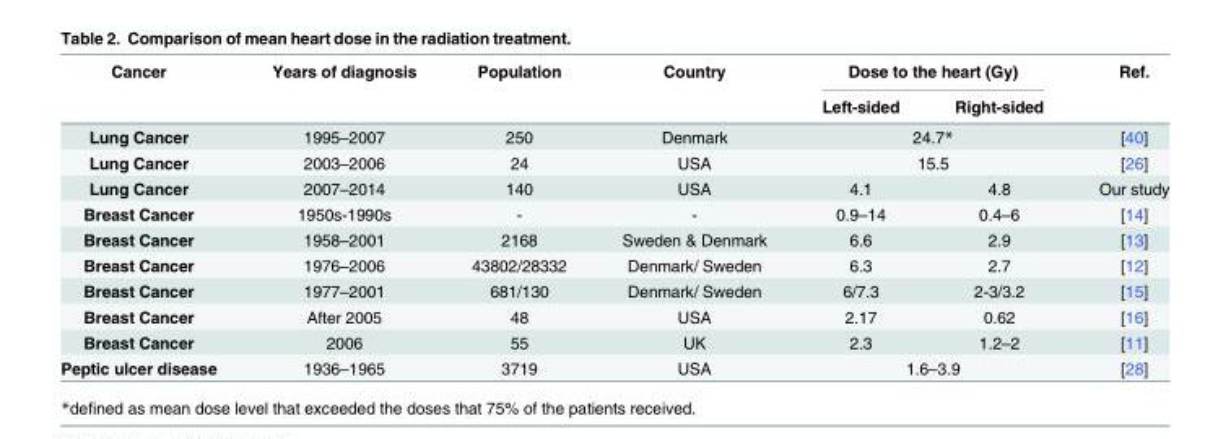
<table><thead><tr><td rowspan="2">Cancer</td><td rowspan="2">Years of diagnosis</td><td rowspan="2">Population</td><td rowspan="2">Country</td><td colspan="2">Dose to the heart (Gy)</td><td rowspan="2">Ref.</td></tr><tr><td>Left-sided</td><td>Right-sided</td></tr></thead><tbody><tr><td>Lung Cancer</td><td>1995–2007</td><td>250</td><td>Denmark</td><td colspan="2">24.7*</td><td>[40]</td></tr><tr><td>Lung Cancer</td><td>2003–2006</td><td>24</td><td>USA</td><td colspan="2">15.5</td><td>[26]</td></tr><tr><td>Lung Cancer</td><td>2007–2014</td><td>140</td><td>USA</td><td>4.1</td><td>4.8</td><td>Our study</td></tr><tr><td>Breast Cancer</td><td>1950s-1990s</td><td>-</td><td>-</td><td>0.9–14</td><td>0.4–6</td><td>[14]</td></tr><tr><td>Breast Cancer</td><td>1958–2001</td><td>2168</td><td>Sweden &amp; Denmark</td><td>6.6</td><td>2.9</td><td>[13]</td></tr><tr><td>Breast Cancer</td><td>1976–2006</td><td>43802/28332</td><td>Denmark/ Sweden</td><td>6.3</td><td>2.7</td><td>[12]</td></tr><tr><td>Breast Cancer</td><td>1977–2001</td><td>681/130</td><td>Denmark/ Sweden</td><td>6/7.3</td><td>2-3/3.2</td><td>[15]</td></tr><tr><td>Breast Cancer</td><td>After 2005</td><td>48</td><td>USA</td><td>2.17</td><td>0.62</td><td>[16]</td></tr><tr><td>Breast Cancer</td><td>2006</td><td>55</td><td>UK</td><td>2.3</td><td>1.2–2</td><td>[11]</td></tr><tr><td>Peptic ulcer disease</td><td>1936–1965</td><td>3719</td><td>USA</td><td colspan="2">1.6–3.9</td><td>[28]</td></tr></tbody></table>